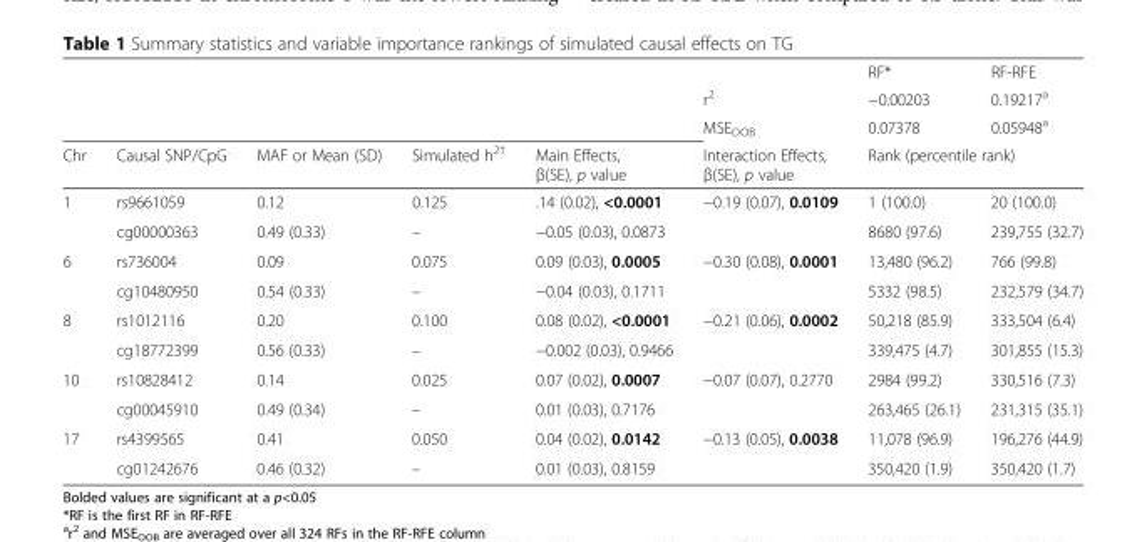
<table><thead><tr><td rowspan="4">Chr</td><td rowspan="4">Causal SNP/CpG</td><td rowspan="4">MAF or Mean (SD)</td><td rowspan="4">Simulated h<sup>2†</sup></td><td rowspan="4">Main Effects, β(SE), p value</td><td rowspan="4">r<sup>2</sup> MSE<sub>OOB</sub> Interaction Effects, β(SE), p value</td><td rowspan="3">RF* −0.00203 0.07378</td><td rowspan="3">RF-RFE 0.19217<sup>a</sup> 0.05948<sup>a</sup></td></tr><tr></tr><tr></tr><tr><td colspan="2">Rank (percentile rank)</td></tr></thead><tbody><tr><td rowspan="2">1</td><td>rs9661059</td><td>0.12</td><td>0.125</td><td>.14 (0.02), &lt;0.0001</td><td rowspan="2">−0.19 (0.07), 0.0109</td><td>1 (100.0)</td><td>20 (100.0)</td></tr><tr><td>cg00000363</td><td>0.49 (0.33)</td><td>–</td><td>−0.05 (0.03), 0.0873</td><td>8680 (97.6)</td><td>239,755 (32.7)</td></tr><tr><td rowspan="2">6</td><td>rs736004</td><td>0.09</td><td>0.075</td><td>0.09 (0.03), 0.0005</td><td rowspan="2">−0.30 (0.08), 0.0001</td><td>13,480 (96.2)</td><td>766 (99.8)</td></tr><tr><td>cg10480950</td><td>0.54 (0.33)</td><td>–</td><td>−0.04 (0.03), 0.1711</td><td>5332 (98.5)</td><td>232,579 (34.7)</td></tr><tr><td rowspan="2">8</td><td>rs1012116</td><td>0.20</td><td>0.100</td><td>0.08 (0.02), &lt;0.0001</td><td rowspan="2">−0.21 (0.06), 0.0002</td><td>50,218 (85.9)</td><td>333,504 (6.4)</td></tr><tr><td>cg18772399</td><td>0.56 (0.33)</td><td>–</td><td>−0.002 (0.03), 0.9466</td><td>339,475 (4.7)</td><td>301,855 (15.3)</td></tr><tr><td rowspan="2">10</td><td>rs10828412</td><td>0.14</td><td>0.025</td><td>0.07 (0.02), 0.0007</td><td rowspan="2">−0.07 (0.07), 0.2770</td><td>2984 (99.2)</td><td>330,516 (7.3)</td></tr><tr><td>cg00045910</td><td>0.49 (0.34)</td><td>–</td><td>0.01 (0.03), 0.7176</td><td>263,465 (26.1)</td><td>231,315 (35.1)</td></tr><tr><td rowspan="2">17</td><td>rs4399565</td><td>0.41</td><td>0.050</td><td>0.04 (0.02), 0.0142</td><td rowspan="2">−0.13 (0.05), 0.0038</td><td>11,078 (96.9)</td><td>196,276 (44.9)</td></tr><tr><td>cg01242676</td><td>0.46 (0.32)</td><td>–</td><td>0.01 (0.03), 0.8159</td><td>350,420 (1.9)</td><td>350,420 (1.7)</td></tr></tbody></table>